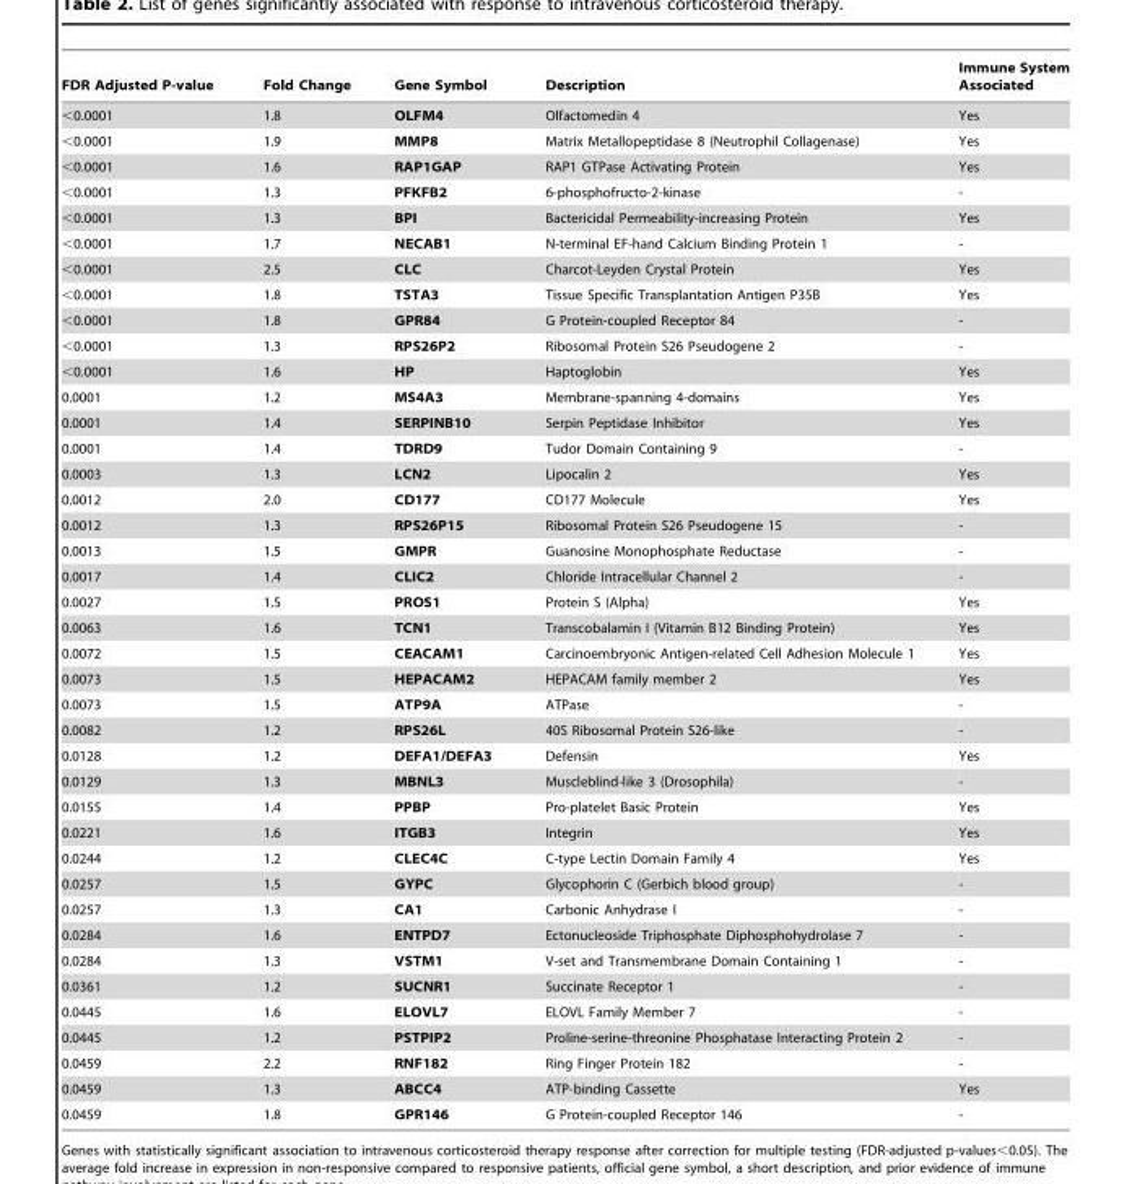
<table><thead><tr><td>FDR Adjusted P-value</td><td>Fold Change</td><td>Gene Symbol</td><td>Description</td><td>Immune System Associated</td></tr></thead><tbody><tr><td>&lt;0.0001</td><td>1.8</td><td>OLFM4</td><td>Olfactomedin 4</td><td>Yes</td></tr><tr><td>&lt;0.0001</td><td>1.9</td><td>MMP8</td><td>Matrix Metallopeptidase 8 (Neutrophil Collagenase)</td><td>Yes</td></tr><tr><td>&lt;0.0001</td><td>1.6</td><td>RAP1GAP</td><td>RAP1 GTPase Activating Protein</td><td>Yes</td></tr><tr><td>&lt;0.0001</td><td>1.3</td><td>PFKFB2</td><td>6-phosphofructo-2-kinase</td><td>-</td></tr><tr><td>&lt;0.0001</td><td>1.3</td><td>BPI</td><td>Bactericidal Permeability-increasing Protein</td><td>Yes</td></tr><tr><td>&lt;0.0001</td><td>1.7</td><td>NECAB1</td><td>N-terminal EF-hand Calcium Binding Protein 1</td><td>-</td></tr><tr><td>&lt;0.0001</td><td>2.5</td><td>CLC</td><td>Charcot-Leyden Crystal Protein</td><td>Yes</td></tr><tr><td>&lt;0.0001</td><td>1.8</td><td>TSTA3</td><td>Tissue Specific Transplantation Antigen P35B</td><td>Yes</td></tr><tr><td>&lt;0.0001</td><td>1.8</td><td>GPR84</td><td>G Protein-coupled Receptor 84</td><td>-</td></tr><tr><td>&lt;0.0001</td><td>1.3</td><td>RPS26P2</td><td>Ribosomal Protein S26 Pseudogene 2</td><td>-</td></tr><tr><td>&lt;0.0001</td><td>1.6</td><td>HP</td><td>Haptoglobin</td><td>Yes</td></tr><tr><td>0.0001</td><td>1.2</td><td>MS4A3</td><td>Membrane-spanning 4-domains</td><td>Yes</td></tr><tr><td>0.0001</td><td>1.4</td><td>SERPINB10</td><td>Serpin Peptidase Inhibitor</td><td>Yes</td></tr><tr><td>0.0001</td><td>1.4</td><td>TDRD9</td><td>Tudor Domain Containing 9</td><td>-</td></tr><tr><td>0.0003</td><td>1.3</td><td>LCN2</td><td>Lipocalin 2</td><td>Yes</td></tr><tr><td>0.0012</td><td>2.0</td><td>CD177</td><td>CD177 Molecule</td><td>Yes</td></tr><tr><td>0.0012</td><td>1.3</td><td>RPS26P15</td><td>Ribosomal Protein S26 Pseudogene 15</td><td>-</td></tr><tr><td>0.0013</td><td>1.5</td><td>GMPR</td><td>Guanosine Monophosphate Reductase</td><td>-</td></tr><tr><td>0.0017</td><td>1.4</td><td>CLIC2</td><td>Chloride Intracellular Channel 2</td><td>-</td></tr><tr><td>0.0027</td><td>1.5</td><td>PROS1</td><td>Protein S (Alpha)</td><td>Yes</td></tr><tr><td>0.0063</td><td>1.6</td><td>TCN1</td><td>Transcobalamin I (Vitamin B12 Binding Protein)</td><td>Yes</td></tr><tr><td>0.0072</td><td>1.5</td><td>CEACAM1</td><td>Carcinoembryonic Antigen-related Cell Adhesion Molecule 1</td><td>Yes</td></tr><tr><td>0.0073</td><td>1.5</td><td>HEPACAM2</td><td>HEPACAM family member 2</td><td>Yes</td></tr><tr><td>0.0073</td><td>1.5</td><td>ATP9A</td><td>ATPase</td><td>-</td></tr><tr><td>0.0082</td><td>1.2</td><td>RPS26L</td><td>40S Ribosomal Protein S26-like</td><td>-</td></tr><tr><td>0.0128</td><td>1.2</td><td>DEFA1/DEFA3</td><td>Defensin</td><td>Yes</td></tr><tr><td>0.0129</td><td>1.3</td><td>MBNL3</td><td>Muscleblind-like 3 (Drosophila)</td><td>-</td></tr><tr><td>0.0155</td><td>1.4</td><td>PPBP</td><td>Pro-platelet Basic Protein</td><td>Yes</td></tr><tr><td>0.0221</td><td>1.6</td><td>ITGB3</td><td>Integrin</td><td>Yes</td></tr><tr><td>0.0244</td><td>1.2</td><td>CLEC4C</td><td>C-type Lectin Domain Family 4</td><td>Yes</td></tr><tr><td>0.0257</td><td>1.5</td><td>GYPC</td><td>Glycophorin C (Gerbich blood group)</td><td>-</td></tr><tr><td>0.0257</td><td>1.3</td><td>CA1</td><td>Carbonic Anhydrase I</td><td>-</td></tr><tr><td>0.0284</td><td>1.6</td><td>ENTPD7</td><td>Ectonucleoside Triphosphate Diphosphohydrolase 7</td><td>-</td></tr><tr><td>0.0284</td><td>1.3</td><td>VSTM1</td><td>V-set and Transmembrane Domain Containing 1</td><td>-</td></tr><tr><td>0.0361</td><td>1.2</td><td>SUCNR1</td><td>Succinate Receptor 1</td><td>-</td></tr><tr><td>0.0445</td><td>1.6</td><td>ELOVL7</td><td>ELOVL Family Member 7</td><td>-</td></tr><tr><td>0.0445</td><td>1.2</td><td>PSTPIP2</td><td>Proline-serine-threonine Phosphatase Interacting Protein 2</td><td>-</td></tr><tr><td>0.0459</td><td>2.2</td><td>RNF182</td><td>Ring Finger Protein 182</td><td>-</td></tr><tr><td>0.0459</td><td>1.3</td><td>ABCC4</td><td>ATP-binding Cassette</td><td>Yes</td></tr><tr><td>0.0459</td><td>1.8</td><td>GPR146</td><td>G Protein-coupled Receptor 146</td><td>-</td></tr></tbody></table>